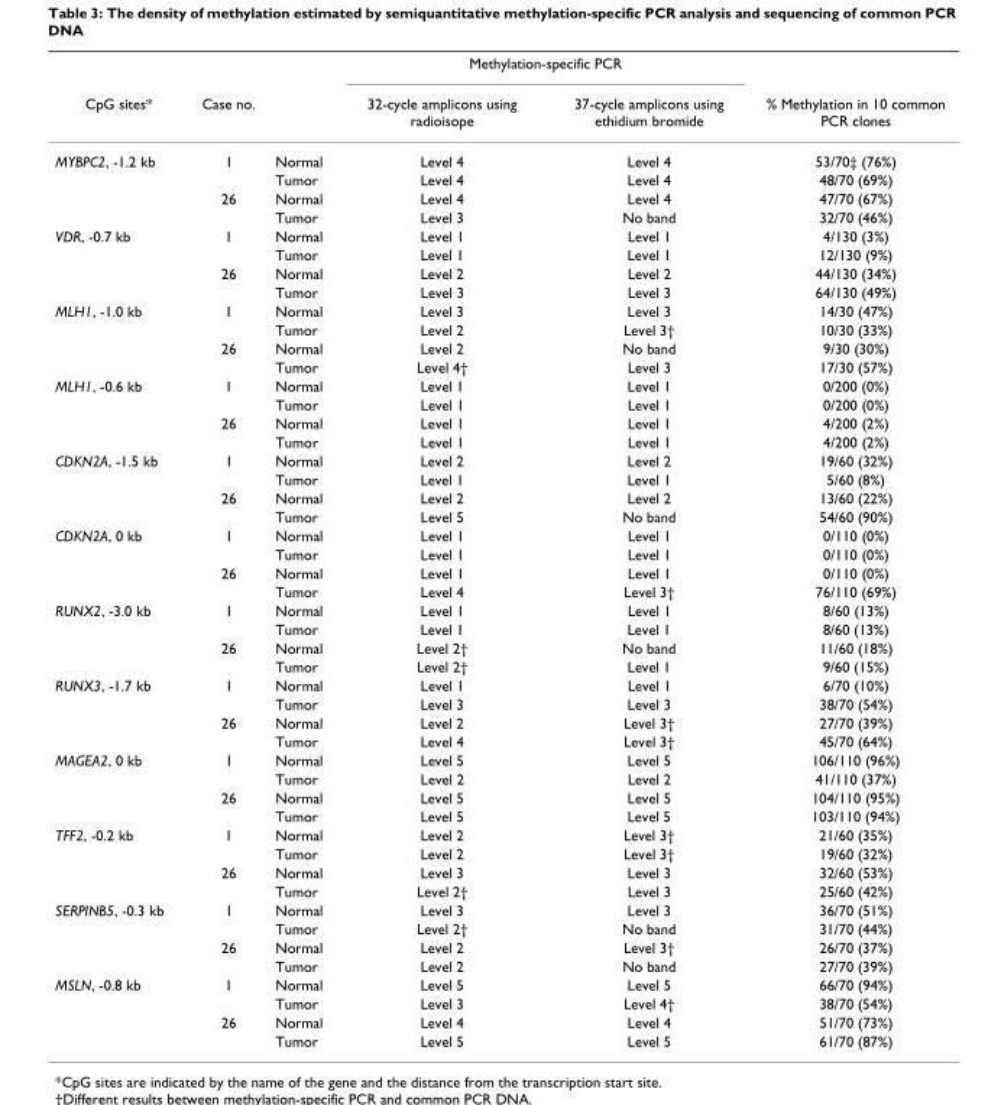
<table><thead><tr><td rowspan="2">CpG sites*</td><td rowspan="2">Case no.</td><td rowspan="2"></td><td colspan="2">Methylation-specific PCR</td><td rowspan="2">% Methylation in 10 common PCR clones</td></tr><tr><td>32-cycle amplicons using radioisope</td><td>37-cycle amplicons using ethidium bromide</td></tr></thead><tbody><tr><td rowspan="4">MYBPC2, -1.2 kb</td><td>1</td><td>Normal</td><td>Level 4</td><td>Level 4</td><td>53/70‡ (76%)</td></tr><tr><td></td><td>Tumor</td><td>Level 4</td><td>Level 4</td><td>48/70 (69%)</td></tr><tr><td>26</td><td>Normal</td><td>Level 4</td><td>Level 4</td><td>47/70 (67%)</td></tr><tr><td></td><td>Tumor</td><td>Level 3</td><td>No band</td><td>32/70 (46%)</td></tr><tr><td rowspan="4">VDR, -0.7 kb</td><td>1</td><td>Normal</td><td>Level 1</td><td>Level 1</td><td>4/130 (3%)</td></tr><tr><td></td><td>Tumor</td><td>Level 1</td><td>Level 1</td><td>12/130 (9%)</td></tr><tr><td>26</td><td>Normal</td><td>Level 2</td><td>Level 2</td><td>44/130 (34%)</td></tr><tr><td></td><td>Tumor</td><td>Level 3</td><td>Level 3</td><td>64/130 (49%)</td></tr><tr><td rowspan="4">MLH1, -1.0 kb</td><td>1</td><td>Normal</td><td>Level 3</td><td>Level 3</td><td>14/30 (47%)</td></tr><tr><td></td><td>Tumor</td><td>Level 2</td><td>Level 3†</td><td>10/30 (33%)</td></tr><tr><td>26</td><td>Normal</td><td>Level 2</td><td>No band</td><td>9/30 (30%)</td></tr><tr><td></td><td>Tumor</td><td>Level 4†</td><td>Level 3</td><td>17/30 (57%)</td></tr><tr><td rowspan="4">MLH1, -0.6 kb</td><td>1</td><td>Normal</td><td>Level 1</td><td>Level 1</td><td>0/200 (0%)</td></tr><tr><td></td><td>Tumor</td><td>Level 1</td><td>Level 1</td><td>0/200 (0%)</td></tr><tr><td>26</td><td>Normal</td><td>Level 1</td><td>Level 1</td><td>4/200 (2%)</td></tr><tr><td></td><td>Tumor</td><td>Level 1</td><td>Level 1</td><td>4/200 (2%)</td></tr><tr><td rowspan="4">CDKN2A, -1.5 kb</td><td>1</td><td>Normal</td><td>Level 2</td><td>Level 2</td><td>19/60 (32%)</td></tr><tr><td></td><td>Tumor</td><td>Level 1</td><td>Level 1</td><td>5/60 (8%)</td></tr><tr><td>26</td><td>Normal</td><td>Level 2</td><td>Level 2</td><td>13/60 (22%)</td></tr><tr><td></td><td>Tumor</td><td>Level 5</td><td>No band</td><td>54/60 (90%)</td></tr><tr><td rowspan="4">CDKN2A, 0 kb</td><td>1</td><td>Normal</td><td>Level 1</td><td>Level 1</td><td>0/110 (0%)</td></tr><tr><td></td><td>Tumor</td><td>Level 1</td><td>Level 1</td><td>0/110 (0%)</td></tr><tr><td>26</td><td>Normal</td><td>Level 1</td><td>Level 1</td><td>0/110 (0%)</td></tr><tr><td></td><td>Tumor</td><td>Level 4</td><td>Level 3†</td><td>76/110 (69%)</td></tr><tr><td rowspan="4">RUNX2, -3.0 kb</td><td>1</td><td>Normal</td><td>Level 1</td><td>Level 1</td><td>8/60 (13%)</td></tr><tr><td></td><td>Tumor</td><td>Level 1</td><td>Level 1</td><td>8/60 (13%)</td></tr><tr><td>26</td><td>Normal</td><td>Level 2†</td><td>No band</td><td>11/60 (18%)</td></tr><tr><td></td><td>Tumor</td><td>Level 2†</td><td>Level 1</td><td>9/60 (15%)</td></tr><tr><td rowspan="4">RUNX3, -1.7 kb</td><td>1</td><td>Normal</td><td>Level 1</td><td>Level 1</td><td>6/70 (10%)</td></tr><tr><td></td><td>Tumor</td><td>Level 3</td><td>Level 3</td><td>38/70 (54%)</td></tr><tr><td>26</td><td>Normal</td><td>Level 2</td><td>Level 3†</td><td>27/70 (39%)</td></tr><tr><td></td><td>Tumor</td><td>Level 4</td><td>Level 3†</td><td>45/70 (64%)</td></tr><tr><td rowspan="4">MAGEA2, 0 kb</td><td>1</td><td>Normal</td><td>Level 5</td><td>Level 5</td><td>106/110 (96%)</td></tr><tr><td></td><td>Tumor</td><td>Level 2</td><td>Level 2</td><td>41/110 (37%)</td></tr><tr><td>26</td><td>Normal</td><td>Level 5</td><td>Level 5</td><td>104/110 (95%)</td></tr><tr><td></td><td>Tumor</td><td>Level 5</td><td>Level 5</td><td>103/110 (94%)</td></tr><tr><td rowspan="4">TFF2, -0.2 kb</td><td>1</td><td>Normal</td><td>Level 2</td><td>Level 3†</td><td>21/60 (35%)</td></tr><tr><td></td><td>Tumor</td><td>Level 2</td><td>Level 3†</td><td>19/60 (32%)</td></tr><tr><td>26</td><td>Normal</td><td>Level 3</td><td>Level 3</td><td>32/60 (53%)</td></tr><tr><td></td><td>Tumor</td><td>Level 2†</td><td>Level 3</td><td>25/60 (42%)</td></tr><tr><td rowspan="4">SERPINB5, -0.3 kb</td><td>1</td><td>Normal</td><td>Level 3</td><td>Level 3</td><td>36/70 (51%)</td></tr><tr><td></td><td>Tumor</td><td>Level 2†</td><td>No band</td><td>31/70 (44%)</td></tr><tr><td>26</td><td>Normal</td><td>Level 2</td><td>Level 3†</td><td>26/70 (37%)</td></tr><tr><td></td><td>Tumor</td><td>Level 2</td><td>No band</td><td>27/70 (39%)</td></tr><tr><td rowspan="4">MSLN, -0.8 kb</td><td>1</td><td>Normal</td><td>Level 5</td><td>Level 5</td><td>66/70 (94%)</td></tr><tr><td></td><td>Tumor</td><td>Level 3</td><td>Level 4†</td><td>38/70 (54%)</td></tr><tr><td>26</td><td>Normal</td><td>Level 4</td><td>Level 4</td><td>51/70 (73%)</td></tr><tr><td></td><td>Tumor</td><td>Level 5</td><td>Level 5</td><td>61/70 (87%)</td></tr></tbody></table>